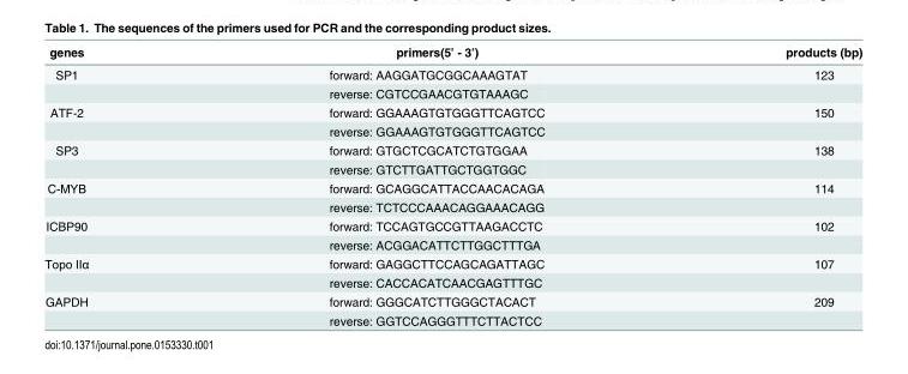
<table><thead><tr><td>genes</td><td>primers(5’ - 3’)</td><td>products (bp)</td></tr></thead><tbody><tr><td rowspan="2">SP1</td><td>forward: AAGGATGCGGCAAAGTAT</td><td>123</td></tr><tr><td>reverse: CGTCCGAACGTGTAAAGC</td><td></td></tr><tr><td rowspan="2">ATF-2</td><td>forward: GGAAAGTGTGGGTTCAGTCC</td><td>150</td></tr><tr><td>reverse: GGAAAGTGTGGGTTCAGTCC</td><td></td></tr><tr><td rowspan="2">SP3</td><td>forward: GTGCTCGCATCTGTGGAA</td><td>138</td></tr><tr><td>reverse: GTCTTGATTGCTGGTGGC</td><td></td></tr><tr><td rowspan="2">C-MYB</td><td>forward: GCAGGCATTACCAACACAGA</td><td>114</td></tr><tr><td>reverse: TCTCCCAAACAGGAAACAGG</td><td></td></tr><tr><td rowspan="2">ICBP90</td><td>forward: TCCAGTGCCGTTAAGACCTC</td><td>102</td></tr><tr><td>reverse: ACGGACATTCTTGGCTTTGA</td><td></td></tr><tr><td rowspan="2">Topo IIα</td><td>forward: GAGGCTTCCAGCAGATTAGC</td><td>107</td></tr><tr><td>reverse: CACCACATCAACGAGTTTGC</td><td></td></tr><tr><td rowspan="2">GAPDH</td><td>forward: GGGCATCTTGGGCTACACT</td><td>209</td></tr><tr><td>reverse: GGTCCAGGGTTTCTTACTCC</td><td></td></tr></tbody></table>